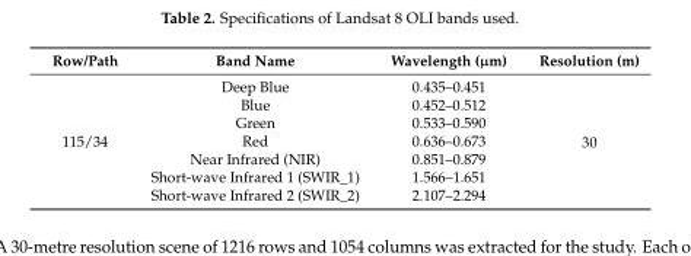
<table><thead><tr><td>Row/Path</td><td>Band Name</td><td>Wavelength (µm)</td><td>Resolution (m)</td></tr></thead><tbody><tr><td rowspan="7">115/34</td><td>Deep Blue</td><td>0.435–0.451</td><td rowspan="7">30</td></tr><tr><td>Blue</td><td>0.452–0.512</td></tr><tr><td>Green</td><td>0.533–0.590</td></tr><tr><td>Red</td><td>0.636–0.673</td></tr><tr><td>Near Infrared (NIR)</td><td>0.851–0.879</td></tr><tr><td>Short-wave Infrared 1 (SWIR_1)</td><td>1.566–1.651</td></tr><tr><td>Short-wave Infrared 2 (SWIR_2)</td><td>2.107–2.294</td></tr></tbody></table>